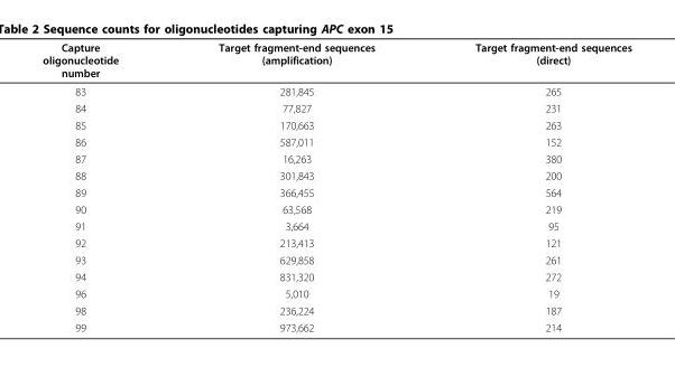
<table><thead><tr><td>Capture oligonucleotide number</td><td>Target fragment-end sequences (amplification)</td><td>Target fragment-end sequences (direct)</td></tr></thead><tbody><tr><td>83</td><td>281,845</td><td>265</td></tr><tr><td>84</td><td>77,827</td><td>231</td></tr><tr><td>85</td><td>170,663</td><td>263</td></tr><tr><td>86</td><td>587,011</td><td>152</td></tr><tr><td>87</td><td>16,263</td><td>380</td></tr><tr><td>88</td><td>301,843</td><td>200</td></tr><tr><td>89</td><td>366,455</td><td>564</td></tr><tr><td>90</td><td>63,568</td><td>219</td></tr><tr><td>91</td><td>3,664</td><td>95</td></tr><tr><td>92</td><td>213,413</td><td>121</td></tr><tr><td>93</td><td>629,858</td><td>261</td></tr><tr><td>94</td><td>831,320</td><td>272</td></tr><tr><td>96</td><td>5,010</td><td>19</td></tr><tr><td>98</td><td>236,224</td><td>187</td></tr><tr><td>99</td><td>973,662</td><td>214</td></tr></tbody></table>